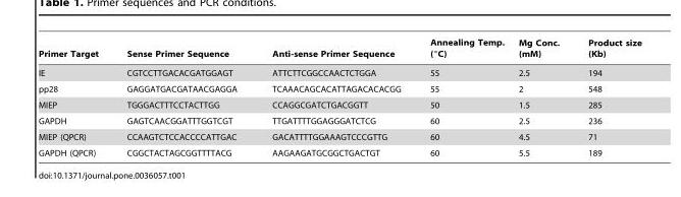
<table><thead><tr><td>Primer Target</td><td>Sense Primer Sequence</td><td>Anti-sense Primer Sequence</td><td>Annealing Temp. (°C)</td><td>Mg Conc. (mM)</td><td>Product size (Kb)</td></tr></thead><tbody><tr><td>IE</td><td>CGTCCTTGACACGATGGAGT</td><td>ATTCTTCGGCCAACTCTGGA</td><td>55</td><td>2.5</td><td>194</td></tr><tr><td>pp28</td><td>GAGGATGACGATAACGAGGA</td><td>TCAAACAGCACATTAGACACACGG</td><td>55</td><td>2</td><td>548</td></tr><tr><td>MIEP</td><td>TGGGACTTTCCTACTTGG</td><td>CCAGGCGATCTGACGGTT</td><td>50</td><td>1.5</td><td>285</td></tr><tr><td>GAPDH</td><td>GAGTCAACGGATTTGGTCGT</td><td>TTGATTTTGGAGGGATCTCG</td><td>60</td><td>2.5</td><td>236</td></tr><tr><td>MIEP (QPCR)</td><td>CCAAGTCTCCACCCCATTGAC</td><td>GACATTTTGGAAAGTCCCGTTG</td><td>60</td><td>4.5</td><td>71</td></tr><tr><td>GAPDH (QPCR)</td><td>CGGCTACTAGCGGTTTTACG</td><td>AAGAAGATGCGGCTGACTGT</td><td>60</td><td>5.5</td><td>189</td></tr></tbody></table>